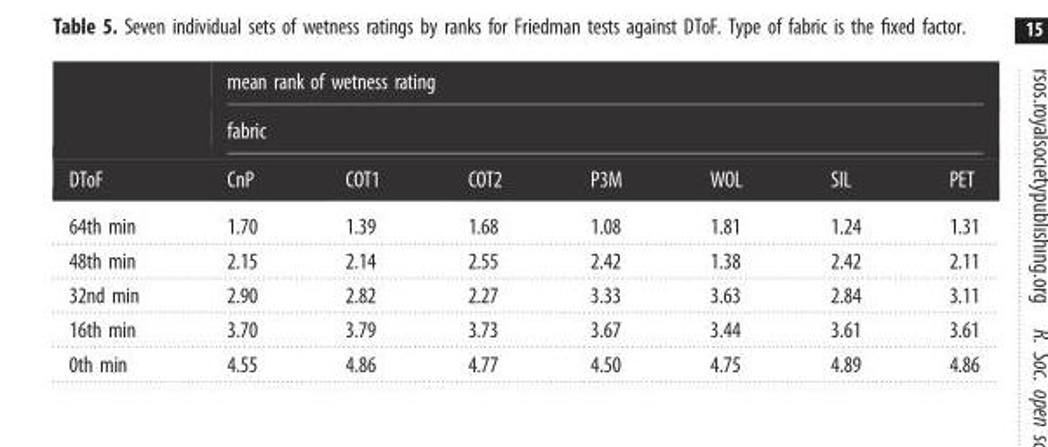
<table><thead><tr><td rowspan="3">DToF</td><td rowspan="2" colspan="7">mean rank of wetness rating fabric</td></tr><tr></tr><tr><td>CnP</td><td>COT1</td><td>COT2</td><td>P3M</td><td>WOL</td><td>SIL</td><td>PET</td></tr></thead><tbody><tr><td>64th min</td><td>1.70</td><td>1.39</td><td>1.68</td><td>1.08</td><td>1.81</td><td>1.24</td><td>1.31</td></tr><tr><td>48th min</td><td>2.15</td><td>2.14</td><td>2.55</td><td>2.42</td><td>1.38</td><td>2.42</td><td>2.11</td></tr><tr><td>32nd min</td><td>2.90</td><td>2.82</td><td>2.27</td><td>3.33</td><td>3.63</td><td>2.84</td><td>3.11</td></tr><tr><td>16th min</td><td>3.70</td><td>3.79</td><td>3.73</td><td>3.67</td><td>3.44</td><td>3.61</td><td>3.61</td></tr><tr><td>0th min</td><td>4.55</td><td>4.86</td><td>4.77</td><td>4.50</td><td>4.75</td><td>4.89</td><td>4.86</td></tr></tbody></table>